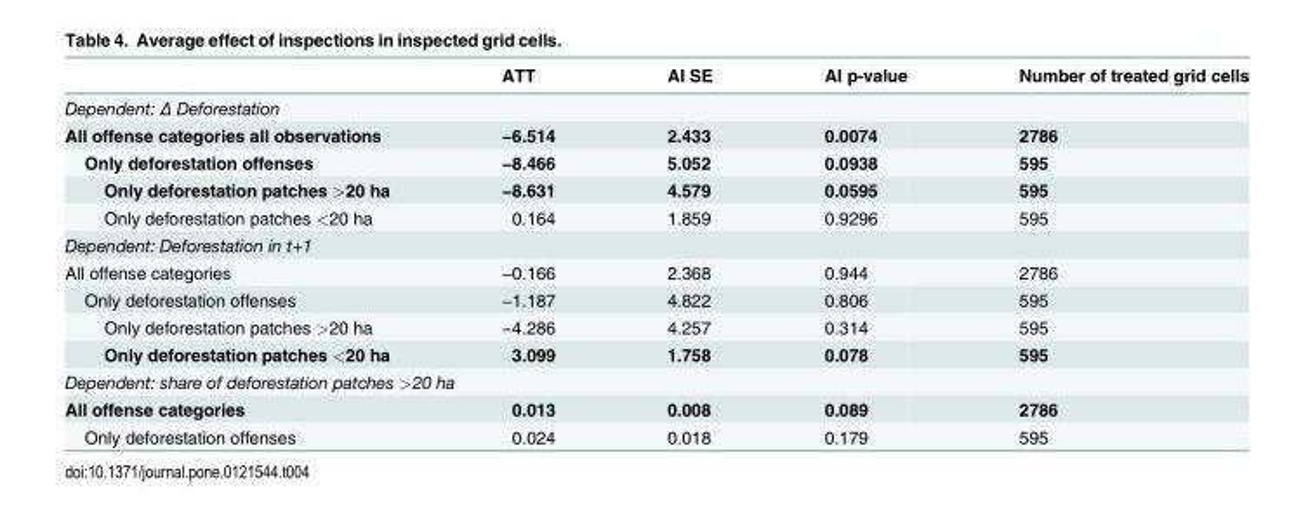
<table><thead><tr><td></td><td>ATT</td><td>AI SE</td><td>AI p-value</td><td>Number of treated grid cells</td></tr></thead><tbody><tr><td colspan="5">Dependent: Δ Deforestation</td></tr><tr><td>All offense categories all observations</td><td>−6.514</td><td>2.433</td><td>0.0074</td><td>2786</td></tr><tr><td>Only deforestation offenses</td><td>−8.466</td><td>5.052</td><td>0.0938</td><td>595</td></tr><tr><td>Only deforestation patches &gt;20 ha</td><td>−8.631</td><td>4.579</td><td>0.0595</td><td>595</td></tr><tr><td>Only deforestation patches &lt;20 ha</td><td>0.164</td><td>1.859</td><td>0.9296</td><td>595</td></tr><tr><td colspan="5">Dependent: Deforestation in t+1</td></tr><tr><td>All offense categories</td><td>−0.166</td><td>2.368</td><td>0.944</td><td>2786</td></tr><tr><td>Only deforestation offenses</td><td>−1.187</td><td>4.822</td><td>0.806</td><td>595</td></tr><tr><td>Only deforestation patches &gt;20 ha</td><td>−4.286</td><td>4.257</td><td>0.314</td><td>595</td></tr><tr><td>Only deforestation patches &lt;20 ha</td><td>3.099</td><td>1.758</td><td>0.078</td><td>595</td></tr><tr><td colspan="5">Dependent: share of deforestation patches &gt;20 ha</td></tr><tr><td>All offense categories</td><td>0.013</td><td>0.008</td><td>0.089</td><td>2786</td></tr><tr><td>Only deforestation offenses</td><td>0.024</td><td>0.018</td><td>0.179</td><td>595</td></tr></tbody></table>